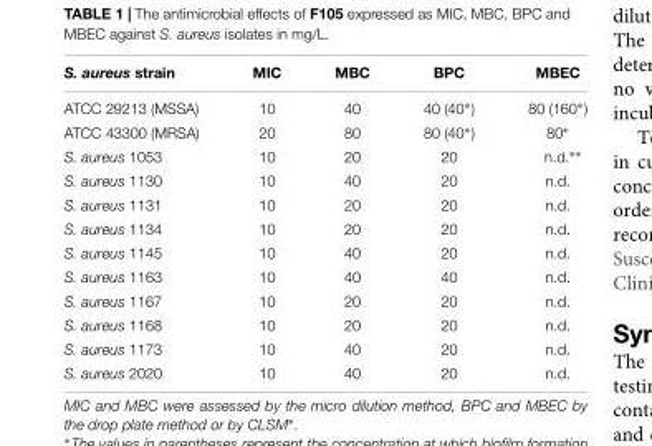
<table><thead><tr><td>S. aureus strain</td><td>MIC</td><td>MBC</td><td>BPC</td><td>MBEC</td></tr></thead><tbody><tr><td>ATCC 29213 (MSSA)</td><td>10</td><td>40</td><td>40 (40∗)</td><td>80 (160∗)</td></tr><tr><td>ATCC 43300 (MRSA)</td><td>20</td><td>80</td><td>80 (40∗)</td><td>80∗</td></tr><tr><td>S. aureus 1053</td><td>10</td><td>20</td><td>20</td><td>n.d.∗∗</td></tr><tr><td>S. aureus 1130</td><td>10</td><td>40</td><td>20</td><td>n.d.</td></tr><tr><td>S. aureus 1131</td><td>10</td><td>20</td><td>20</td><td>n.d.</td></tr><tr><td>S. aureus 1134</td><td>10</td><td>20</td><td>20</td><td>n.d.</td></tr><tr><td>S. aureus 1145</td><td>10</td><td>40</td><td>20</td><td>n.d.</td></tr><tr><td>S. aureus 1163</td><td>10</td><td>40</td><td>40</td><td>n.d.</td></tr><tr><td>S. aureus 1167</td><td>10</td><td>20</td><td>20</td><td>n.d.</td></tr><tr><td>S. aureus 1168</td><td>10</td><td>20</td><td>20</td><td>n.d.</td></tr><tr><td>S. aureus 1173</td><td>10</td><td>40</td><td>20</td><td>n.d.</td></tr><tr><td>S. aureus 2020</td><td>10</td><td>40</td><td>20</td><td>n.d.</td></tr></tbody></table>